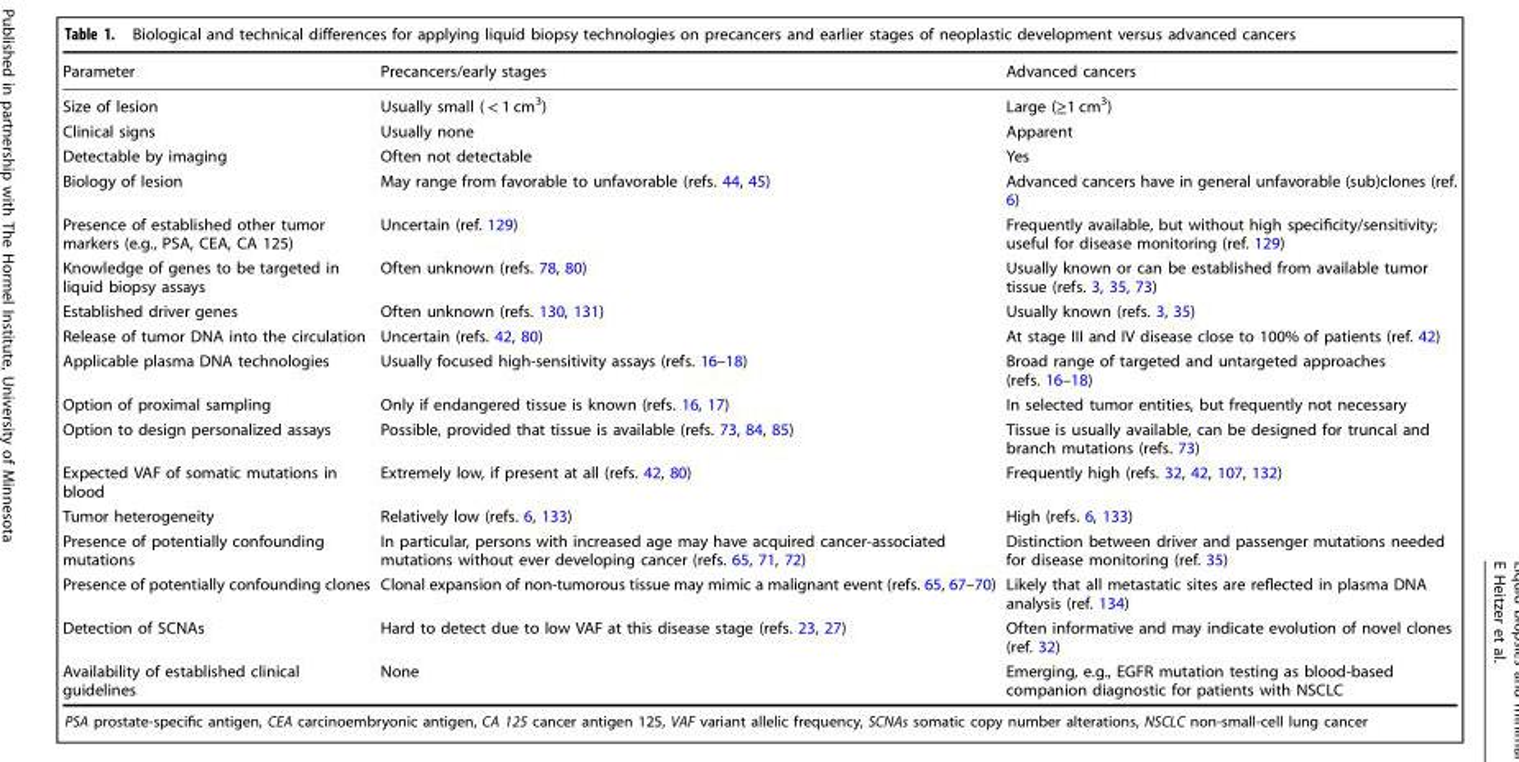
<table><thead><tr><td>Parameter</td><td>Precancers/early stages</td><td>Advanced cancers</td></tr></thead><tbody><tr><td>Size of lesion</td><td>Usually small ( &lt; 1 cm<sup>3</sup>)</td><td>Large (≥1 cm<sup>3</sup>)</td></tr><tr><td>Clinical signs</td><td>Usually none</td><td>Apparent</td></tr><tr><td>Detectable by imaging</td><td>Often not detectable</td><td>Yes</td></tr><tr><td>Biology of lesion</td><td>May range from favorable to unfavorable (refs. 44, 45)</td><td>Advanced cancers have in general unfavorable (sub)clones (ref. 6)</td></tr><tr><td>Presence of established other tumor markers (e.g., PSA, CEA, CA 125)</td><td>Uncertain (ref. 129)</td><td>Frequently available, but without high specificity/sensitivity; useful for disease monitoring (ref. 129)</td></tr><tr><td>Knowledge of genes to be targeted in liquid biopsy assays</td><td>Often unknown (refs. 78, 80)</td><td>Usually known or can be established from available tumor tissue (refs. 3, 35, 73)</td></tr><tr><td>Established driver genes</td><td>Often unknown (refs. 130, 131)</td><td>Usually known (refs. 3, 35)</td></tr><tr><td>Release of tumor DNA into the circulation</td><td>Uncertain (refs. 42, 80)</td><td>At stage III and IV disease close to 100% of patients (ref. 42)</td></tr><tr><td>Applicable plasma DNA technologies</td><td>Usually focused high-sensitivity assays (refs. 16–18)</td><td>Broad range of targeted and untargeted approaches (refs. 16–18)</td></tr><tr><td>Option of proximal sampling</td><td>Only if endangered tissue is known (refs. 16, 17)</td><td>In selected tumor entities, but frequently not necessary</td></tr><tr><td>Option to design personalized assays</td><td>Possible, provided that tissue is available (refs. 73, 84, 85)</td><td>Tissue is usually available, can be designed for truncal and branch mutations (refs. 73)</td></tr><tr><td>Expected VAF of somatic mutations in blood</td><td>Extremely low, if present at all (refs. 42, 80)</td><td>Frequently high (refs. 32, 42, 107, 132)</td></tr><tr><td>Tumor heterogeneity</td><td>Relatively low (refs. 6, 133)</td><td>High (refs. 6, 133)</td></tr><tr><td>Presence of potentially confounding mutations</td><td>In particular, persons with increased age may have acquired cancer-associated mutations without ever developing cancer (refs. 65, 71, 72)</td><td>Distinction between driver and passenger mutations needed for disease monitoring (ref. 35)</td></tr><tr><td>Presence of potentially confounding clones</td><td>Clonal expansion of non-tumorous tissue may mimic a malignant event (refs. 65, 67–70)</td><td>Likely that all metastatic sites are reflected in plasma DNA analysis (ref. 134)</td></tr><tr><td>Detection of SCNAs</td><td>Hard to detect due to low VAF at this disease stage (refs. 23, 27)</td><td>Often informative and may indicate evolution of novel clones (ref. 32)</td></tr><tr><td>Availability of established clinical guidelines</td><td>None</td><td>Emerging, e.g., EGFR mutation testing as blood-based companion diagnostic for patients with NSCLC</td></tr></tbody></table>